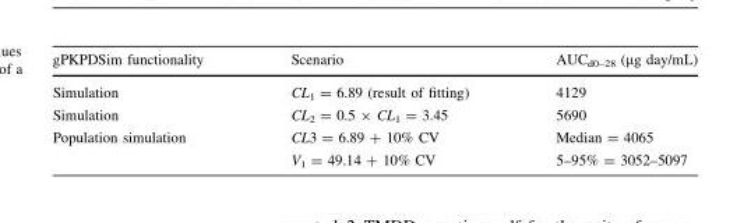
<table><thead><tr><td>gPKPDSim functionality</td><td>Scenario</td><td>AUC<sub>d0–28</sub> (μg day/mL)</td></tr></thead><tbody><tr><td>Simulation</td><td>CL<sub>1</sub> = 6.89 (result of fitting)</td><td>4129</td></tr><tr><td>Simulation</td><td>CL<sub>2</sub> = 0.5 × CL<sub>1</sub> = 3.45</td><td>5690</td></tr><tr><td>Population simulation</td><td>CL3 = 6.89 + 10% CV V<sub>1</sub> = 49.14 + 10% CV</td><td>Median = 4065 5–95% = 3052–5097</td></tr></tbody></table>